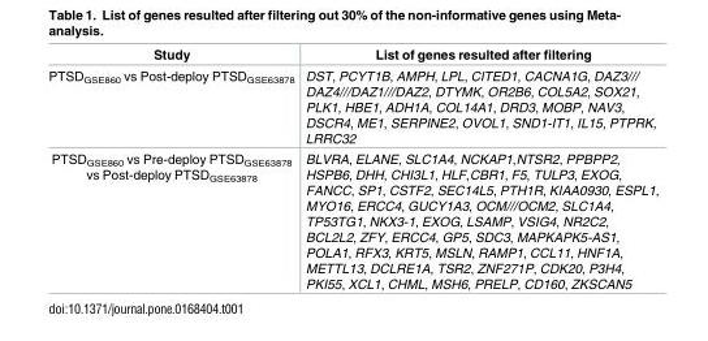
<table><thead><tr><td>Study</td><td>List of genes resulted after filtering</td></tr></thead><tbody><tr><td>PTSD<sub>GSE860</sub> vs Post-deploy PTSD<sub>GSE63878</sub></td><td>DST, PCYT1B, AMPH, LPL, CITED1, CACNA1G, DAZ3/// DAZ4///DAZ1///DAZ2, DTYMK, OR2B6, COL5A2, SOX21, PLK1, HBE1, ADH1A, COL14A1, DRD3, MOBP, NAV3, DSCR4, ME1, SERPINE2, OVOL1, SND1-IT1, IL15, PTPRK, LRRC32</td></tr><tr><td>PTSD<sub>GSE860</sub> vs Pre-deploy PTSD<sub>GSE63878</sub> vs Post-deploy PTSD<sub>GSE63878</sub></td><td>BLVRA, ELANE, SLC1A4, NCKAP1,NTSR2, PPBPP2, HSPB6, DHH, CHI3L1, HLF,CBR1, F5, TULP3, EXOG, FANCC, SP1, CSTF2, SEC14L5, PTH1R, KIAA0930, ESPL1, MYO16, ERCC4, GUCY1A3, OCM///OCM2, SLC1A4, TP53TG1, NKX3-1, EXOG, LSAMP, VSIG4, NR2C2, BCL2L2, ZFY, ERCC4, GP5, SDC3, MAPKAPK5-AS1, POLA1, RFX3, KRT5, MSLN, RAMP1, CCL11, HNF1A, METTL13, DCLRE1A, TSR2, ZNF271P, CDK20, P3H4, PKI55, XCL1, CHML, MSH6, PRELP, CD160, ZKSCAN5</td></tr></tbody></table>